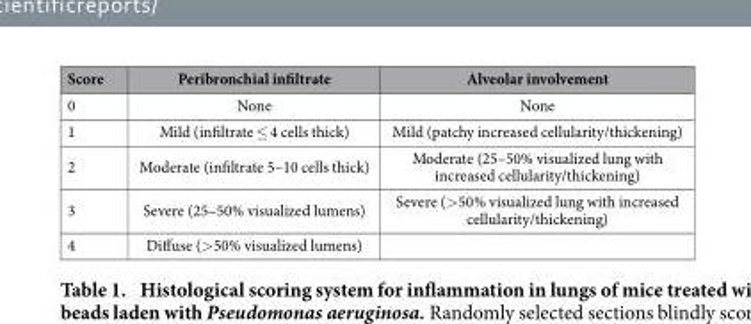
<table><thead><tr><td>Score</td><td>Peribronchial infiltrate</td><td>Alveolar involvement</td></tr></thead><tbody><tr><td>0</td><td>None</td><td>None</td></tr><tr><td>1</td><td>Mild (infiltrate ≤ 4 cells thick)</td><td>Mild (patchy increased cellularity/thickening)</td></tr><tr><td>2</td><td>Moderate (infiltrate 5–10 cells thick)</td><td>Moderate (25–50% visualized lung with increased cellularity/thickening)</td></tr><tr><td>3</td><td>Severe (25–50% visualized lumens)</td><td>Severe (&gt; 50% visualized lung with increased cellularity/thickening)</td></tr><tr><td>4</td><td>Diffuse (&gt; 50% visualized lumens)</td><td></td></tr></tbody></table>